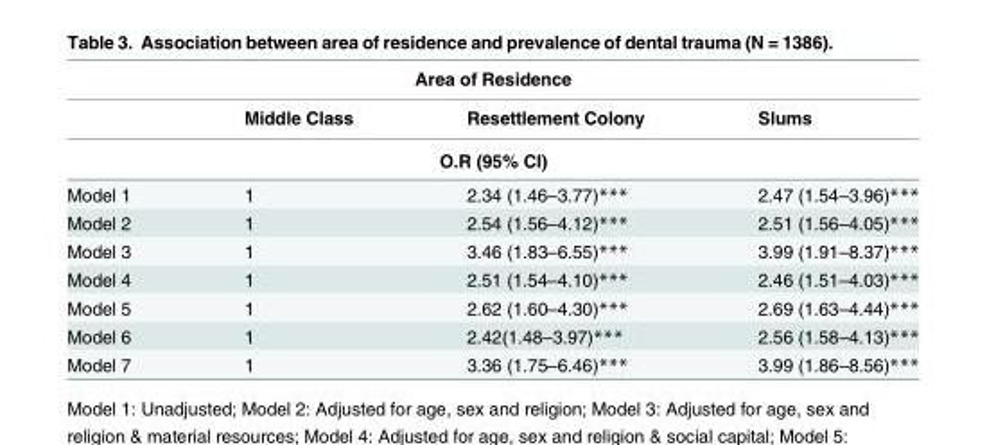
<table><thead><tr><td colspan="4">Area of Residence</td></tr><tr><td></td><td>Middle Class</td><td>Resettlement Colony</td><td>Slums</td></tr><tr><td colspan="4">O.R (95% CI)</td></tr></thead><tbody><tr><td>Model 1</td><td>1</td><td>2.34 (1.46–3.77)***</td><td>2.47 (1.54–3.96)***</td></tr><tr><td>Model 2</td><td>1</td><td>2.54 (1.56–4.12)***</td><td>2.51 (1.56–4.05)***</td></tr><tr><td>Model 3</td><td>1</td><td>3.46 (1.83–6.55)***</td><td>3.99 (1.91–8.37)***</td></tr><tr><td>Model 4</td><td>1</td><td>2.51 (1.54–4.10)***</td><td>2.46 (1.51–4.03)***</td></tr><tr><td>Model 5</td><td>1</td><td>2.62 (1.60–4.30)***</td><td>2.69 (1.63–4.44)***</td></tr><tr><td>Model 6</td><td>1</td><td>2.42(1.48–3.97)***</td><td>2.56 (1.58–4.13)***</td></tr><tr><td>Model 7</td><td>1</td><td>3.36 (1.75–6.46)***</td><td>3.99 (1.86–8.56)***</td></tr></tbody></table>